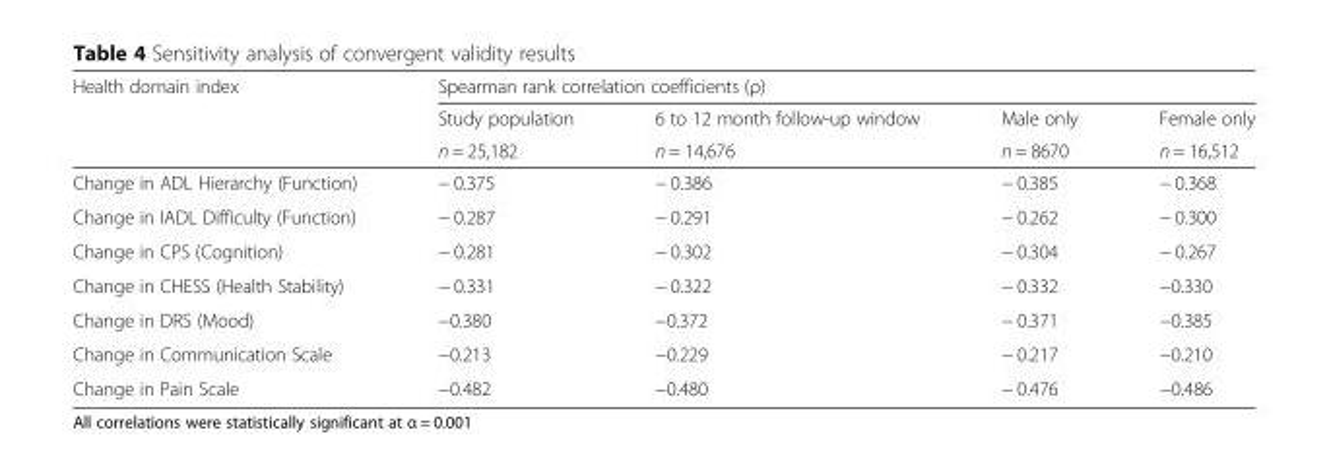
<table><thead><tr><td rowspan="3">Health domain index</td><td colspan="4">Spearman rank correlation coefficients (ρ)</td></tr><tr><td rowspan="2">Study population n = 25,182</td><td rowspan="2">6 to 12 month follow-up window n = 14,676</td><td rowspan="2">Male only n = 8670</td><td rowspan="2">Female only n = 16,512</td></tr><tr></tr></thead><tbody><tr><td>Change in ADL Hierarchy (Function)</td><td>− 0.375</td><td>− 0.386</td><td>− 0.385</td><td>− 0.368</td></tr><tr><td>Change in IADL Difficulty (Function)</td><td>− 0.287</td><td>− 0.291</td><td>− 0.262</td><td>− 0.300</td></tr><tr><td>Change in CPS (Cognition)</td><td>− 0.281</td><td>− 0.302</td><td>− 0.304</td><td>− 0.267</td></tr><tr><td>Change in CHESS (Health Stability)</td><td>− 0.331</td><td>− 0.322</td><td>− 0.332</td><td>−0.330</td></tr><tr><td>Change in DRS (Mood)</td><td>−0.380</td><td>−0.372</td><td>− 0.371</td><td>−0.385</td></tr><tr><td>Change in Communication Scale</td><td>−0.213</td><td>−0.229</td><td>− 0.217</td><td>−0.210</td></tr><tr><td>Change in Pain Scale</td><td>−0.482</td><td>−0.480</td><td>− 0.476</td><td>−0.486</td></tr></tbody></table>